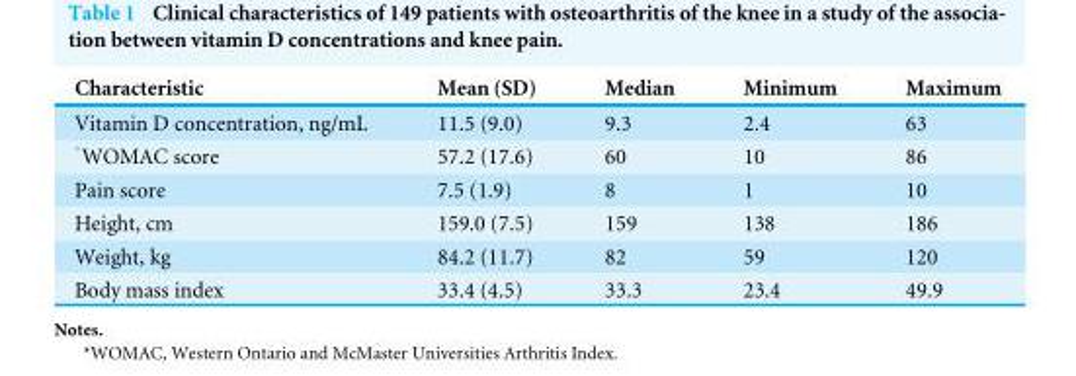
<table><thead><tr><td>Characteristic</td><td>Mean (SD)</td><td>Median</td><td>Minimum</td><td>Maximum</td></tr></thead><tbody><tr><td>Vitamin D concentration, ng/mL</td><td>11.5 (9.0)</td><td>9.3</td><td>2.4</td><td>63</td></tr><tr><td>*WOMAC score</td><td>57.2 (17.6)</td><td>60</td><td>10</td><td>86</td></tr><tr><td>Pain score</td><td>7.5 (1.9)</td><td>8</td><td>1</td><td>10</td></tr><tr><td>Height, cm</td><td>159.0 (7.5)</td><td>159</td><td>138</td><td>186</td></tr><tr><td>Weight, kg</td><td>84.2 (11.7)</td><td>82</td><td>59</td><td>120</td></tr><tr><td>Body mass index</td><td>33.4 (4.5)</td><td>33.3</td><td>23.4</td><td>49.9</td></tr></tbody></table>